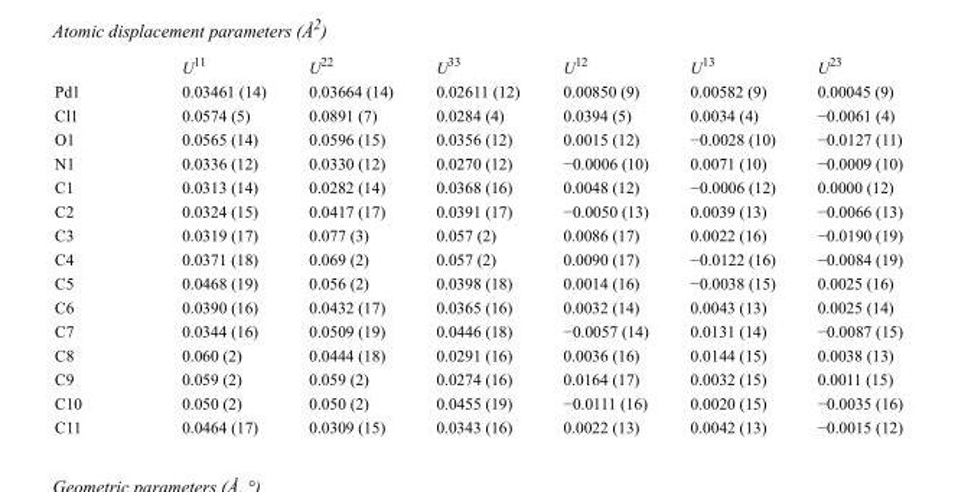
<table><thead><tr><td></td><td>U<sup>11</sup></td><td>U<sup>22</sup></td><td>U<sup>33</sup></td><td>U<sup>12</sup></td><td>U<sup>13</sup></td><td>U<sup>23</sup></td></tr></thead><tbody><tr><td>Pd1</td><td>0.03461 (14)</td><td>0.03664 (14)</td><td>0.02611 (12)</td><td>0.00850 (9)</td><td>0.00582 (9)</td><td>0.00045 (9)</td></tr><tr><td>Cl1</td><td>0.0574 (5)</td><td>0.0891 (7)</td><td>0.0284 (4)</td><td>0.0394 (5)</td><td>0.0034 (4)</td><td>−0.0061 (4)</td></tr><tr><td>O1</td><td>0.0565 (14)</td><td>0.0596 (15)</td><td>0.0356 (12)</td><td>0.0015 (12)</td><td>−0.0028 (10)</td><td>−0.0127 (11)</td></tr><tr><td>N1</td><td>0.0336 (12)</td><td>0.0330 (12)</td><td>0.0270 (12)</td><td>−0.0006 (10)</td><td>0.0071 (10)</td><td>−0.0009 (10)</td></tr><tr><td>C1</td><td>0.0313 (14)</td><td>0.0282 (14)</td><td>0.0368 (16)</td><td>0.0048 (12)</td><td>−0.0006 (12)</td><td>0.0000 (12)</td></tr><tr><td>C2</td><td>0.0324 (15)</td><td>0.0417 (17)</td><td>0.0391 (17)</td><td>−0.0050 (13)</td><td>0.0039 (13)</td><td>−0.0066 (13)</td></tr><tr><td>C3</td><td>0.0319 (17)</td><td>0.077 (3)</td><td>0.057 (2)</td><td>0.0086 (17)</td><td>0.0022 (16)</td><td>−0.0190 (19)</td></tr><tr><td>C4</td><td>0.0371 (18)</td><td>0.069 (2)</td><td>0.057 (2)</td><td>0.0090 (17)</td><td>−0.0122 (16)</td><td>−0.0084 (19)</td></tr><tr><td>C5</td><td>0.0468 (19)</td><td>0.056 (2)</td><td>0.0398 (18)</td><td>0.0014 (16)</td><td>−0.0038 (15)</td><td>0.0025 (16)</td></tr><tr><td>C6</td><td>0.0390 (16)</td><td>0.0432 (17)</td><td>0.0365 (16)</td><td>0.0032 (14)</td><td>0.0043 (13)</td><td>0.0025 (14)</td></tr><tr><td>C7</td><td>0.0344 (16)</td><td>0.0509 (19)</td><td>0.0446 (18)</td><td>−0.0057 (14)</td><td>0.0131 (14)</td><td>−0.0087 (15)</td></tr><tr><td>C8</td><td>0.060 (2)</td><td>0.0444 (18)</td><td>0.0291 (16)</td><td>0.0036 (16)</td><td>0.0144 (15)</td><td>0.0038 (13)</td></tr><tr><td>C9</td><td>0.059 (2)</td><td>0.059 (2)</td><td>0.0274 (16)</td><td>0.0164 (17)</td><td>0.0032 (15)</td><td>0.0011 (15)</td></tr><tr><td>C10</td><td>0.050 (2)</td><td>0.050 (2)</td><td>0.0455 (19)</td><td>−0.0111 (16)</td><td>0.0020 (15)</td><td>−0.0035 (16)</td></tr><tr><td>C11</td><td>0.0464 (17)</td><td>0.0309 (15)</td><td>0.0343 (16)</td><td>0.0022 (13)</td><td>0.0042 (13)</td><td>−0.0015 (12)</td></tr></tbody></table>